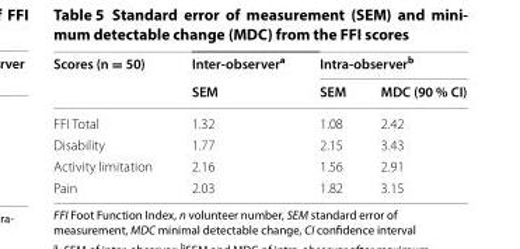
<table><thead><tr><td rowspan="2">Scores (n = 50)</td><td rowspan="2">Inter-observer<sup>a</sup> SEM</td><td colspan="2">Intra-observer<sup>b</sup></td></tr><tr><td>SEM</td><td>MDC (90 % CI)</td></tr></thead><tbody><tr><td>FFI Total</td><td>1.32</td><td>1.08</td><td>2.42</td></tr><tr><td>Disability</td><td>1.77</td><td>2.15</td><td>3.43</td></tr><tr><td>Activity limitation</td><td>2.16</td><td>1.56</td><td>2.91</td></tr><tr><td>Pain</td><td>2.03</td><td>1.82</td><td>3.15</td></tr></tbody></table>